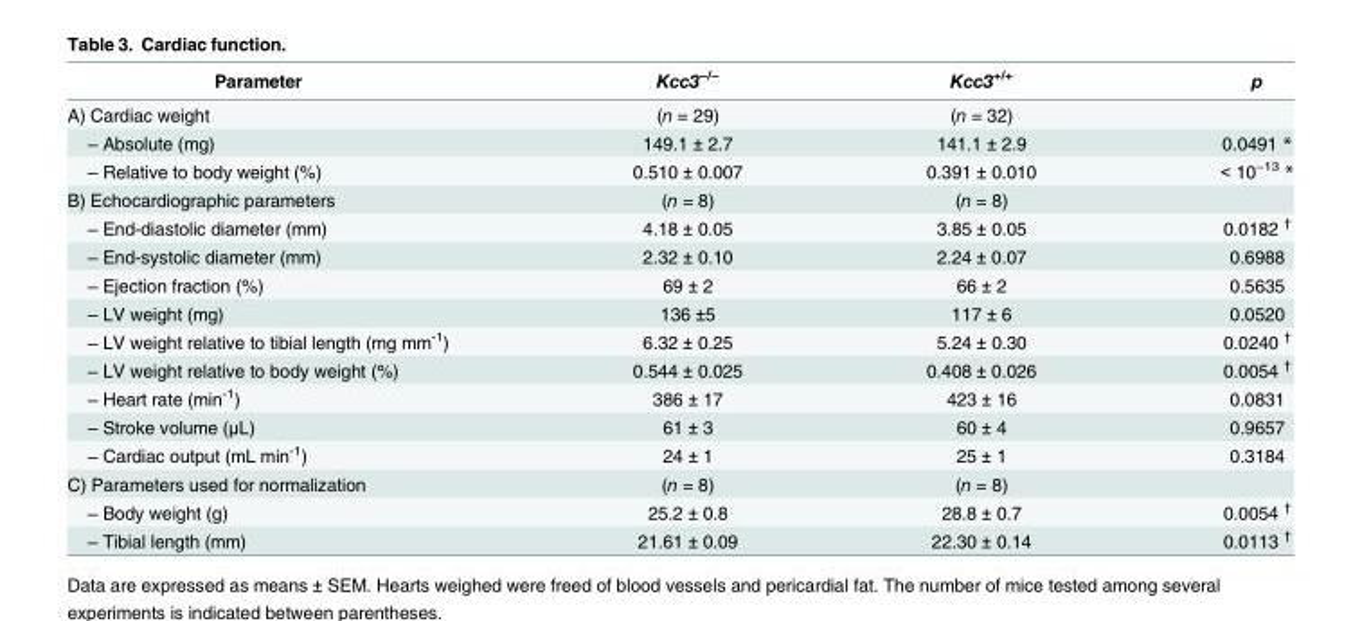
<table><thead><tr><td>Parameter</td><td>Kcc3<sup>−/−</sup></td><td>Kcc3<sup>+/+</sup></td><td>p</td></tr></thead><tbody><tr><td>A) Cardiac weight</td><td>(n = 29)</td><td>(n = 32)</td><td></td></tr><tr><td>‒ Absolute (mg)</td><td>149.1 ± 2.7</td><td>141.1 ± 2.9</td><td>0.0491 *</td></tr><tr><td>‒ Relative to body weight (%)</td><td>0.510 ± 0.007</td><td>0.391 ± 0.010</td><td>&lt; 10<sup>−13</sup> *</td></tr><tr><td>B) Echocardiographic parameters</td><td>(n = 8)</td><td>(n = 8)</td><td></td></tr><tr><td>‒ End-diastolic diameter (mm)</td><td>4.18 ± 0.05</td><td>3.85 ± 0.05</td><td>0.0182 <sup>†</sup></td></tr><tr><td>‒ End-systolic diameter (mm)</td><td>2.32 ± 0.10</td><td>2.24 ± 0.07</td><td>0.6988</td></tr><tr><td>‒ Ejection fraction (%)</td><td>69 ± 2</td><td>66 ± 2</td><td>0.5635</td></tr><tr><td>‒ LV weight (mg)</td><td>136 ±5</td><td>117 ± 6</td><td>0.0520</td></tr><tr><td>‒ LV weight relative to tibial length (mg mm<sup>-1</sup>)</td><td>6.32 ± 0.25</td><td>5.24 ± 0.30</td><td>0.0240 <sup>†</sup></td></tr><tr><td>‒ LV weight relative to body weight (%)</td><td>0.544 ± 0.025</td><td>0.408 ± 0.026</td><td>0.0054 <sup>†</sup></td></tr><tr><td>‒ Heart rate (min<sup>-1</sup>)</td><td>386 ± 17</td><td>423 ± 16</td><td>0.0831</td></tr><tr><td>‒ Stroke volume (μL)</td><td>61 ± 3</td><td>60 ± 4</td><td>0.9657</td></tr><tr><td>‒ Cardiac output (mL min<sup>-1</sup>)</td><td>24 ± 1</td><td>25 ± 1</td><td>0.3184</td></tr><tr><td>C) Parameters used for normalization</td><td>(n = 8)</td><td>(n = 8)</td><td></td></tr><tr><td>‒ Body weight (g)</td><td>25.2 ± 0.8</td><td>28.8 ± 0.7</td><td>0.0054 <sup>†</sup></td></tr><tr><td>‒ Tibial length (mm)</td><td>21.61 ± 0.09</td><td>22.30 ± 0.14</td><td>0.0113 <sup>†</sup></td></tr></tbody></table>